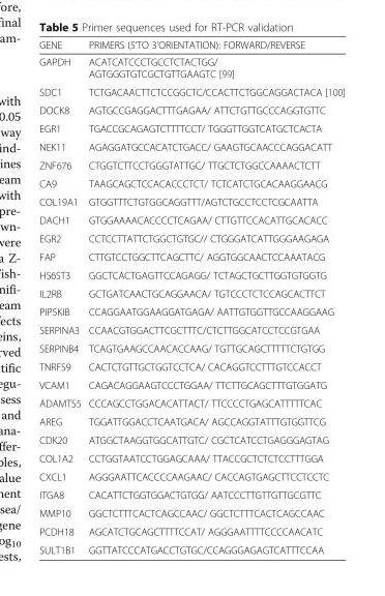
<table><thead><tr><td>GENE</td><td>PRIMERS (5’TO 3’ORIENTATION): FORWARD/REVERSE</td></tr></thead><tbody><tr><td>GAPDH</td><td>ACATCATCCCTGCCTCTACTGG/ AGTGGGTGTCGCTGTTGAAGTC [99]</td></tr><tr><td>SDC1</td><td>TCTGACAACTTCTCCGGCTC/CCACTTCTGGCAGGACTACA [100]</td></tr><tr><td>DOCK8</td><td>AGTGCCGAGGACTTTGAGAA/ ATTCTGTTGCCCAGGTGTTC</td></tr><tr><td>EGR1</td><td>TGACCGCAGAGTCTTTTCCT/ TGGGTTGGTCATGCTCACTA</td></tr><tr><td>NEK11</td><td>AGAGGATGCCACATCTGACC/ GAAGTGCAACCCAGGACATT</td></tr><tr><td>ZNF676</td><td>CTGGTCTTCCTGGGTATTGC/ TTGCTCTGGCCAAAACTCTT</td></tr><tr><td>CA9</td><td>TAAGCAGCTCCACACCCTCT/ TCTCATCTGCACAAGGAACG</td></tr><tr><td>COL19A1</td><td>GTGGTTTCTGTGGCAGGTTT/AGTCTGCCTCCTCGCAATTA</td></tr><tr><td>DACH1</td><td>GTGGAAAACACCCCTCAGAA/ CTTGTTCCACATTGCACACC</td></tr><tr><td>EGR2</td><td>CCTCCTTATTCTGGCTGTGC// CTGGGATCATTGGGAAGAGA</td></tr><tr><td>FAP</td><td>CTTGTCCTGGCTTCAGCTTC/ AGGTGGCAACTCCAAATACG</td></tr><tr><td>HS6ST3</td><td>GGCTCACTGAGTTCCAGAGG/ TCTAGCTGCTTGGTGTGGTG</td></tr><tr><td>IL2RB</td><td>GCTGATCAACTGCAGGAACA/ TGTCCCTCTCCAGCACTTCT</td></tr><tr><td>PIP5KIB</td><td>CCAGGAATGGAAGGATGAGA/ AATTGTGGTTGCCAAGGAAG</td></tr><tr><td>SERPINA3</td><td>CCAACGTGGACTTCGCTTTC/CTCTTGGCATCCTCCGTGAA</td></tr><tr><td>SERPINB4</td><td>TCAGTGAAGCCAACACCAAG/ TGTTGCAGCTTTTTCTGTGG</td></tr><tr><td>TNRFS9</td><td>CACTCTGTTGCTGGTCCTCA/ CACAGGTCCTTTGTCCACCT</td></tr><tr><td>VCAM1</td><td>CAGACAGGAAGTCCCTGGAA/ TTCTTGCAGCTTTGTGGATG</td></tr><tr><td>ADAMTS5</td><td>CCCAGCCTGGACACATTACT/ TTCCCCTGAGCATTTTTCAC</td></tr><tr><td>AREG</td><td>TGGATTGGACCTCAATGACA/ AGCCAGGTATTTGTGGTTCG</td></tr><tr><td>CDK20</td><td>ATGGCTAAGGTGGCATTGTC/ CGCTCATCCTGAGGGAGTAG</td></tr><tr><td>COL1A2</td><td>CCTGGTAATCCTGGAGCAAA/ TTACCGCTCTCTCCTTTGGA</td></tr><tr><td>CXCL1</td><td>AGGGAATTCACCCCAAGAAC/ CACCAGTGAGCTTCCTCCTC</td></tr><tr><td>ITGA8</td><td>CACATTCTGGTGGACTGTGG/ AATCCCTTGTTGTTGCGTTC</td></tr><tr><td>MMP10</td><td>GGCTCTTTCACTCAGCCAAC/ GGCTCTTTCACTCAGCCAAC</td></tr><tr><td>PCDH18</td><td>AGCATCTGCAGCTTTTCCAT/ AGGGAATTTTCCCCAACATC</td></tr><tr><td>SULT1B1</td><td>GGTTATCCCATGACCTGTGC/CCAGGGAGAGTCATTTCCAA</td></tr></tbody></table>